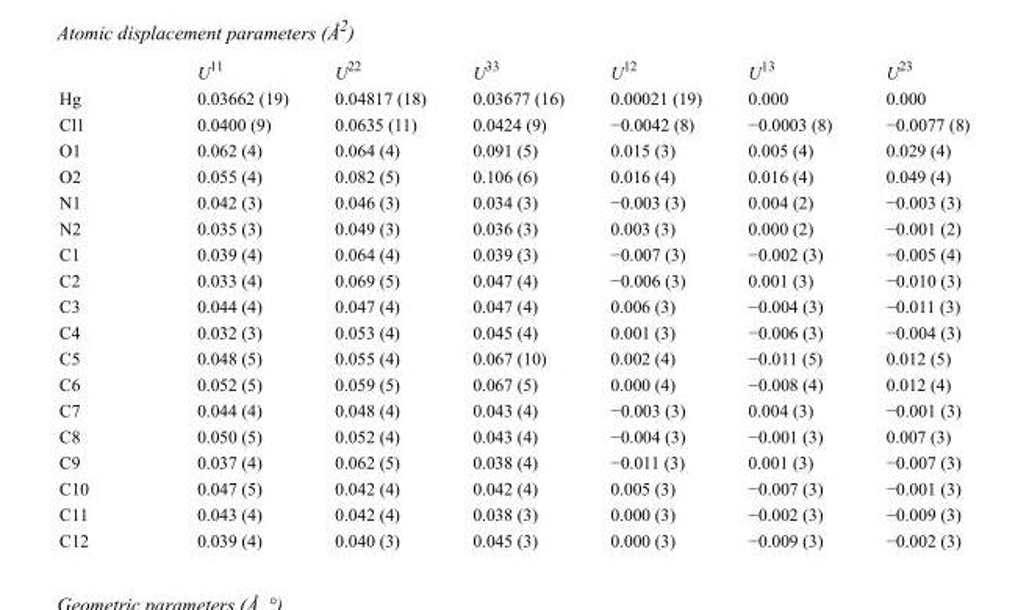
<table><thead><tr><td></td><td>U<sup>11</sup></td><td>U<sup>22</sup></td><td>U<sup>33</sup></td><td>U<sup>12</sup></td><td>U<sup>13</sup></td><td>U<sup>23</sup></td></tr></thead><tbody><tr><td>Hg</td><td>0.03662 (19)</td><td>0.04817 (18)</td><td>0.03677 (16)</td><td>0.00021 (19)</td><td>0.000</td><td>0.000</td></tr><tr><td>Cl1</td><td>0.0400 (9)</td><td>0.0635 (11)</td><td>0.0424 (9)</td><td>−0.0042 (8)</td><td>−0.0003 (8)</td><td>−0.0077 (8)</td></tr><tr><td>O1</td><td>0.062 (4)</td><td>0.064 (4)</td><td>0.091 (5)</td><td>0.015 (3)</td><td>0.005 (4)</td><td>0.029 (4)</td></tr><tr><td>O2</td><td>0.055 (4)</td><td>0.082 (5)</td><td>0.106 (6)</td><td>0.016 (4)</td><td>0.016 (4)</td><td>0.049 (4)</td></tr><tr><td>N1</td><td>0.042 (3)</td><td>0.046 (3)</td><td>0.034 (3)</td><td>−0.003 (3)</td><td>0.004 (2)</td><td>−0.003 (3)</td></tr><tr><td>N2</td><td>0.035 (3)</td><td>0.049 (3)</td><td>0.036 (3)</td><td>0.003 (3)</td><td>0.000 (2)</td><td>−0.001 (2)</td></tr><tr><td>C1</td><td>0.039 (4)</td><td>0.064 (4)</td><td>0.039 (3)</td><td>−0.007 (3)</td><td>−0.002 (3)</td><td>−0.005 (4)</td></tr><tr><td>C2</td><td>0.033 (4)</td><td>0.069 (5)</td><td>0.047 (4)</td><td>−0.006 (3)</td><td>0.001 (3)</td><td>−0.010 (3)</td></tr><tr><td>C3</td><td>0.044 (4)</td><td>0.047 (4)</td><td>0.047 (4)</td><td>0.006 (3)</td><td>−0.004 (3)</td><td>−0.011 (3)</td></tr><tr><td>C4</td><td>0.032 (3)</td><td>0.053 (4)</td><td>0.045 (4)</td><td>0.001 (3)</td><td>−0.006 (3)</td><td>−0.004 (3)</td></tr><tr><td>C5</td><td>0.048 (5)</td><td>0.055 (4)</td><td>0.067 (10)</td><td>0.002 (4)</td><td>−0.011 (5)</td><td>0.012 (5)</td></tr><tr><td>C6</td><td>0.052 (5)</td><td>0.059 (5)</td><td>0.067 (5)</td><td>0.000 (4)</td><td>−0.008 (4)</td><td>0.012 (4)</td></tr><tr><td>C7</td><td>0.044 (4)</td><td>0.048 (4)</td><td>0.043 (4)</td><td>−0.003 (3)</td><td>0.004 (3)</td><td>−0.001 (3)</td></tr><tr><td>C8</td><td>0.050 (5)</td><td>0.052 (4)</td><td>0.043 (4)</td><td>−0.004 (3)</td><td>−0.001 (3)</td><td>0.007 (3)</td></tr><tr><td>C9</td><td>0.037 (4)</td><td>0.062 (5)</td><td>0.038 (4)</td><td>−0.011 (3)</td><td>0.001 (3)</td><td>−0.007 (3)</td></tr><tr><td>C10</td><td>0.047 (5)</td><td>0.042 (4)</td><td>0.042 (4)</td><td>0.005 (3)</td><td>−0.007 (3)</td><td>−0.001 (3)</td></tr><tr><td>C11</td><td>0.043 (4)</td><td>0.042 (4)</td><td>0.038 (3)</td><td>0.000 (3)</td><td>−0.002 (3)</td><td>−0.009 (3)</td></tr><tr><td>C12</td><td>0.039 (4)</td><td>0.040 (3)</td><td>0.045 (3)</td><td>0.000 (3)</td><td>−0.009 (3)</td><td>−0.002 (3)</td></tr></tbody></table>